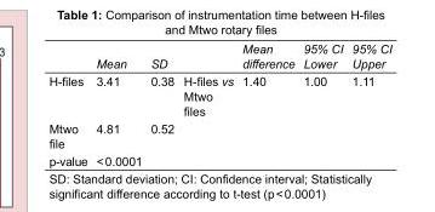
<table><thead><tr><td></td><td>Mean</td><td>SD</td><td></td><td>Mean difference</td><td>95% CI Lower</td><td>95% CI Upper</td></tr></thead><tbody><tr><td>H-files</td><td>3.41</td><td>0.38</td><td>H-files vs Mtwo files</td><td>1.40</td><td>1.00</td><td>1.11</td></tr><tr><td>Mtwo file</td><td>4.81</td><td>0.52</td><td></td><td></td><td></td><td></td></tr><tr><td>p-value</td><td>&lt; 0.0001</td><td></td><td></td><td></td><td></td><td></td></tr></tbody></table>